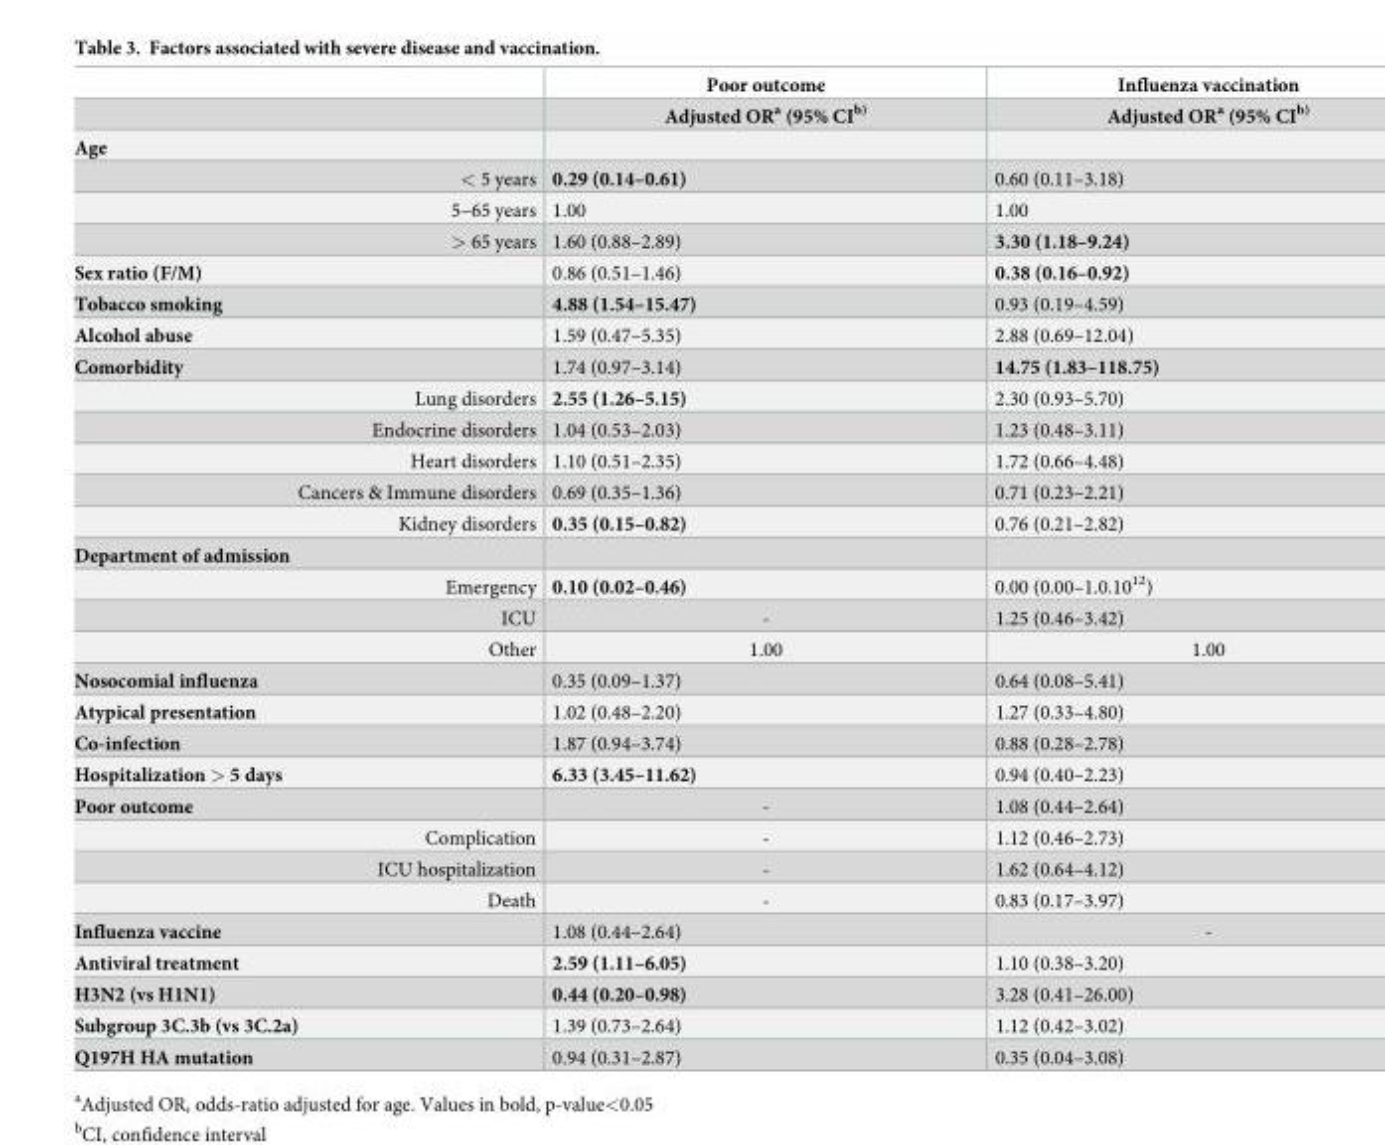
<table><thead><tr><td rowspan="2"></td><td rowspan="2">Poor outcome Adjusted ORa (95% CIb)</td><td rowspan="2">Influenza vaccination Adjusted OR<sup>a</sup> (95% CI<sup>b)</sup></td></tr><tr></tr></thead><tbody><tr><td colspan="3">Age</td></tr><tr><td>&lt; 5 years</td><td>0.29 (0.14–0.61)</td><td>0.60 (0.11–3.18)</td></tr><tr><td>5–65 years</td><td>1.00</td><td>1.00</td></tr><tr><td>&gt; 65 years</td><td>1.60 (0.88–2.89)</td><td>3.30 (1.18–9.24)</td></tr><tr><td>Sex ratio (F/M)</td><td>0.86 (0.51–1.46)</td><td>0.38 (0.16–0.92)</td></tr><tr><td>Tobacco smoking</td><td>4.88 (1.54–15.47)</td><td>0.93 (0.19–4.59)</td></tr><tr><td>Alcohol abuse</td><td>1.59 (0.47–5.35)</td><td>2.88 (0.69–12.04)</td></tr><tr><td>Comorbidity</td><td>1.74 (0.97–3.14)</td><td>14.75 (1.83–118.75)</td></tr><tr><td>Lung disorders</td><td>2.55 (1.26–5.15)</td><td>2.30 (0.93–5.70)</td></tr><tr><td>Endocrine disorders</td><td>1.04 (0.53–2.03)</td><td>1.23 (0.48–3.11)</td></tr><tr><td>Heart disorders</td><td>1.10 (0.51–2.35)</td><td>1.72 (0.66–4.48)</td></tr><tr><td>Cancers &amp; Immune disorders</td><td>0.69 (0.35–1.36)</td><td>0.71 (0.23–2.21)</td></tr><tr><td>Kidney disorders</td><td>0.35 (0.15–0.82)</td><td>0.76 (0.21–2.82)</td></tr><tr><td colspan="3">Department of admission</td></tr><tr><td>Emergency</td><td>0.10 (0.02–0.46)</td><td>0.00 (0.00–1.0.10<sup>12</sup>)</td></tr><tr><td>ICU</td><td>-</td><td>1.25 (0.46–3.42)</td></tr><tr><td>Other</td><td>1.00</td><td>1.00</td></tr><tr><td>Nosocomial influenza</td><td>0.35 (0.09–1.37)</td><td>0.64 (0.08–5.41)</td></tr><tr><td>Atypical presentation</td><td>1.02 (0.48–2.20)</td><td>1.27 (0.33–4.80)</td></tr><tr><td>Co-infection</td><td>1.87 (0.94–3.74)</td><td>0.88 (0.28–2.78)</td></tr><tr><td>Hospitalization &gt; 5 days</td><td>6.33 (3.45–11.62)</td><td>0.94 (0.40–2.23)</td></tr><tr><td>Poor outcome</td><td>-</td><td>1.08 (0.44–2.64)</td></tr><tr><td>Complication</td><td>-</td><td>1.12 (0.46–2.73)</td></tr><tr><td>ICU hospitalization</td><td>-</td><td>1.62 (0.64–4.12)</td></tr><tr><td>Death</td><td>-</td><td>0.83 (0.17–3.97)</td></tr><tr><td>Influenza vaccine</td><td>1.08 (0.44–2.64)</td><td>-</td></tr><tr><td>Antiviral treatment</td><td>2.59 (1.11–6.05)</td><td>1.10 (0.38–3.20)</td></tr><tr><td>H3N2 (vs H1N1)</td><td>0.44 (0.20–0.98)</td><td>3.28 (0.41–26.00)</td></tr><tr><td>Subgroup 3C.3b (vs 3C.2a)</td><td>1.39 (0.73–2.64)</td><td>1.12 (0.42–3.02)</td></tr><tr><td>Q197H HA mutation</td><td>0.94 (0.31–2.87)</td><td>0.35 (0.04–3.08)</td></tr></tbody></table>